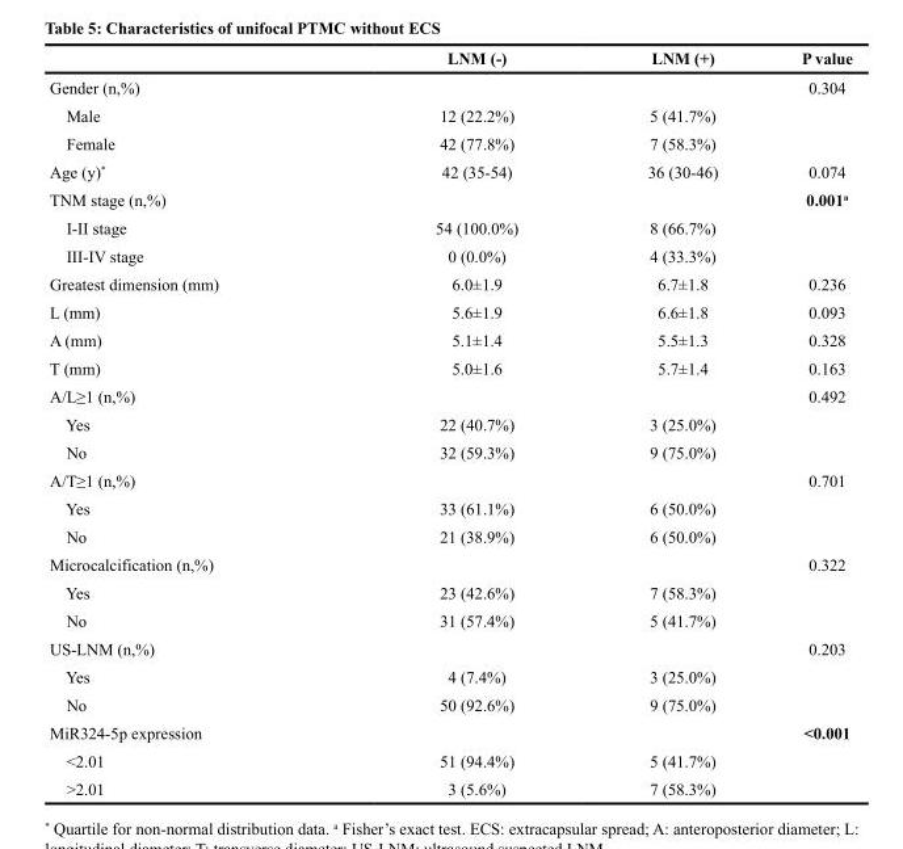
<table><thead><tr><td></td><td>LNM (-)</td><td>LNM (+)</td><td>P value</td></tr></thead><tbody><tr><td>Gender (n,%)</td><td></td><td></td><td>0.304</td></tr><tr><td>Male</td><td>12 (22.2%)</td><td>5 (41.7%)</td><td></td></tr><tr><td>Female</td><td>42 (77.8%)</td><td>7 (58.3%)</td><td></td></tr><tr><td>Age (y)*</td><td>42 (35-54)</td><td>36 (30-46)</td><td>0.074</td></tr><tr><td>TNM stage (n,%)</td><td></td><td></td><td>0.001<sup>a</sup></td></tr><tr><td>I-II stage</td><td>54 (100.0%)</td><td>8 (66.7%)</td><td></td></tr><tr><td>III-IV stage</td><td>0 (0.0%)</td><td>4 (33.3%)</td><td></td></tr><tr><td>Greatest dimension (mm)</td><td>6.0±1.9</td><td>6.7±1.8</td><td>0.236</td></tr><tr><td>L (mm)</td><td>5.6±1.9</td><td>6.6±1.8</td><td>0.093</td></tr><tr><td>A (mm)</td><td>5.1±1.4</td><td>5.5±1.3</td><td>0.328</td></tr><tr><td>T (mm)</td><td>5.0±1.6</td><td>5.7±1.4</td><td>0.163</td></tr><tr><td>A/L≥1 (n,%)</td><td></td><td></td><td>0.492</td></tr><tr><td>Yes</td><td>22 (40.7%)</td><td>3 (25.0%)</td><td></td></tr><tr><td>No</td><td>32 (59.3%)</td><td>9 (75.0%)</td><td></td></tr><tr><td>A/T≥1 (n,%)</td><td></td><td></td><td>0.701</td></tr><tr><td>Yes</td><td>33 (61.1%)</td><td>6 (50.0%)</td><td></td></tr><tr><td>No</td><td>21 (38.9%)</td><td>6 (50.0%)</td><td></td></tr><tr><td>Microcalcification (n,%)</td><td></td><td></td><td>0.322</td></tr><tr><td>Yes</td><td>23 (42.6%)</td><td>7 (58.3%)</td><td></td></tr><tr><td>No</td><td>31 (57.4%)</td><td>5 (41.7%)</td><td></td></tr><tr><td>US-LNM (n,%)</td><td></td><td></td><td>0.203</td></tr><tr><td>Yes</td><td>4 (7.4%)</td><td>3 (25.0%)</td><td></td></tr><tr><td>No</td><td>50 (92.6%)</td><td>9 (75.0%)</td><td></td></tr><tr><td>MiR324-5p expression</td><td></td><td></td><td>&lt;0.001</td></tr><tr><td>&lt;2.01</td><td>51 (94.4%)</td><td>5 (41.7%)</td><td></td></tr><tr><td>&gt;2.01</td><td>3 (5.6%)</td><td>7 (58.3%)</td><td></td></tr></tbody></table>